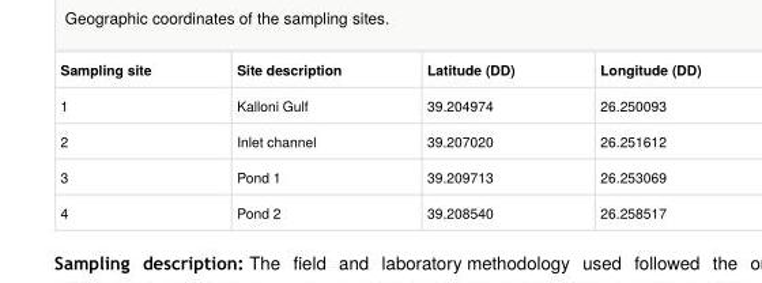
<table><thead><tr><td>Sampling site</td><td>Site description</td><td>Latitude (DD)</td><td>Longitude (DD)</td></tr></thead><tbody><tr><td>1</td><td>Kalloni Gulf</td><td>39.204974</td><td>26.250093</td></tr><tr><td>2</td><td>Inlet channel</td><td>39.207020</td><td>26.251612</td></tr><tr><td>3</td><td>Pond 1</td><td>39.209713</td><td>26.253069</td></tr><tr><td>4</td><td>Pond 2</td><td>39.208540</td><td>26.258517</td></tr></tbody></table>